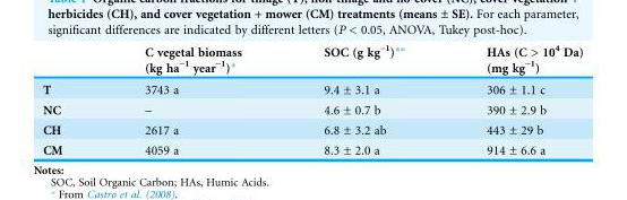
<table><thead><tr><td></td><td>C vegetal biomass (kg ha<sup>-1</sup> year<sup>-1</sup>)*</td><td>SOC (g kg<sup>-1</sup>)**</td><td>HAs (C &gt; 10<sup>4</sup> Da) (mg kg<sup>-1</sup>)</td></tr></thead><tbody><tr><td>T</td><td>3743 a</td><td>9.4 ± 3.1 a</td><td>306 ± 1.1 c</td></tr><tr><td>NC</td><td>–</td><td>4.6 ± 0.7 b</td><td>390 ± 2.9 b</td></tr><tr><td>CH</td><td>2617 a</td><td>6.8 ± 3.2 ab</td><td>443 ± 29 b</td></tr><tr><td>CM</td><td>4059 a</td><td>8.3 ± 2.0 a</td><td>914 ± 6.6 a</td></tr></tbody></table>